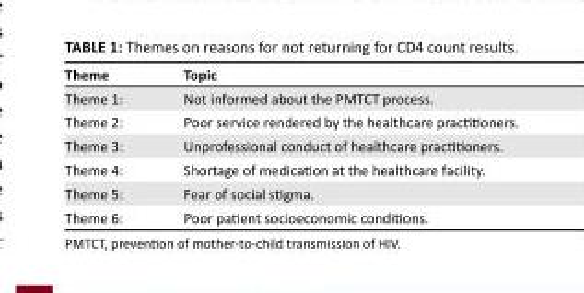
<table><thead><tr><td>Theme</td><td>Topic</td></tr></thead><tbody><tr><td>Theme 1:</td><td>Not informed about the PMTCT process.</td></tr><tr><td>Theme 2:</td><td>Poor service rendered by the healthcare practitioners.</td></tr><tr><td>Theme 3:</td><td>Unprofessional conduct of healthcare practitioners.</td></tr><tr><td>Theme 4:</td><td>Shortage of medication at the healthcare facility.</td></tr><tr><td>Theme 5:</td><td>Fear of social stigma.</td></tr><tr><td>Theme 6:</td><td>Poor patient socioeconomic conditions.</td></tr></tbody></table>